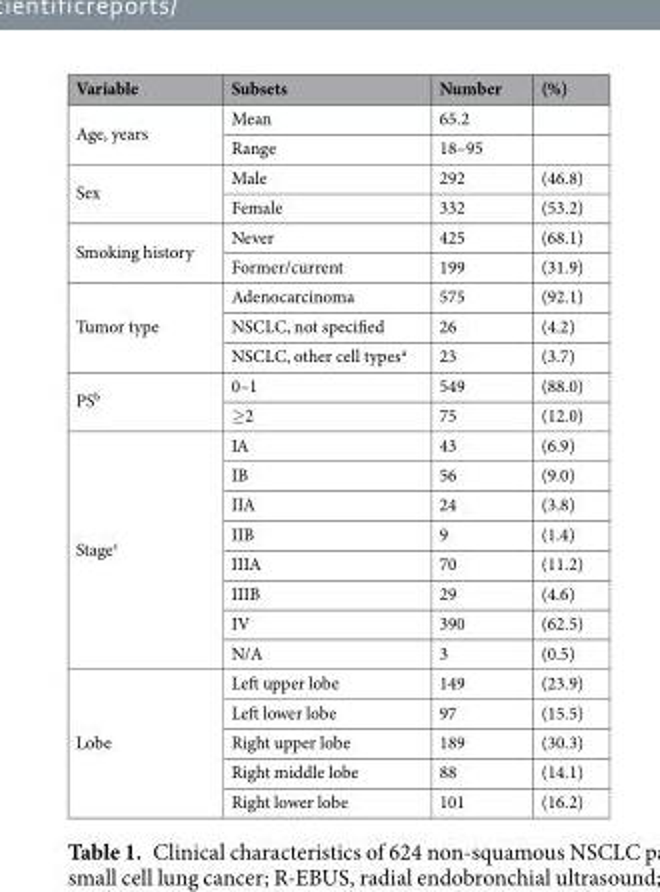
<table><thead><tr><td>Variable</td><td>Subsets</td><td>Number</td><td>(%)</td></tr></thead><tbody><tr><td rowspan="2">Age, years</td><td>Mean</td><td>65.2</td><td></td></tr><tr><td>Range</td><td>18–95</td><td></td></tr><tr><td rowspan="2">Sex</td><td>Male</td><td>292</td><td>(46.8)</td></tr><tr><td>Female</td><td>332</td><td>(53.2)</td></tr><tr><td rowspan="2">Smoking history</td><td>Never</td><td>425</td><td>(68.1)</td></tr><tr><td>Former/current</td><td>199</td><td>(31.9)</td></tr><tr><td rowspan="3">Tumor type</td><td>Adenocarcinoma</td><td>575</td><td>(92.1)</td></tr><tr><td>NSCLC, not specified</td><td>26</td><td>(4.2)</td></tr><tr><td>NSCLC, other cell types<sup>a</sup></td><td>23</td><td>(3.7)</td></tr><tr><td rowspan="2">PS<sup>b</sup></td><td>0–1</td><td>549</td><td>(88.0)</td></tr><tr><td>≥2</td><td>75</td><td>(12.0)</td></tr><tr><td rowspan="8">Stage<sup>c</sup></td><td>IA</td><td>43</td><td>(6.9)</td></tr><tr><td>IB</td><td>56</td><td>(9.0)</td></tr><tr><td>IIA</td><td>24</td><td>(3.8)</td></tr><tr><td>IIB</td><td>9</td><td>(1.4)</td></tr><tr><td>IIIA</td><td>70</td><td>(11.2)</td></tr><tr><td>IIIB</td><td>29</td><td>(4.6)</td></tr><tr><td>IV</td><td>390</td><td>(62.5)</td></tr><tr><td>N/A</td><td>3</td><td>(0.5)</td></tr><tr><td rowspan="5">Lobe</td><td>Left upper lobe</td><td>149</td><td>(23.9)</td></tr><tr><td>Left lower lobe</td><td>97</td><td>(15.5)</td></tr><tr><td>Right upper lobe</td><td>189</td><td>(30.3)</td></tr><tr><td>Right middle lobe</td><td>88</td><td>(14.1)</td></tr><tr><td>Right lower lobe</td><td>101</td><td>(16.2)</td></tr></tbody></table>